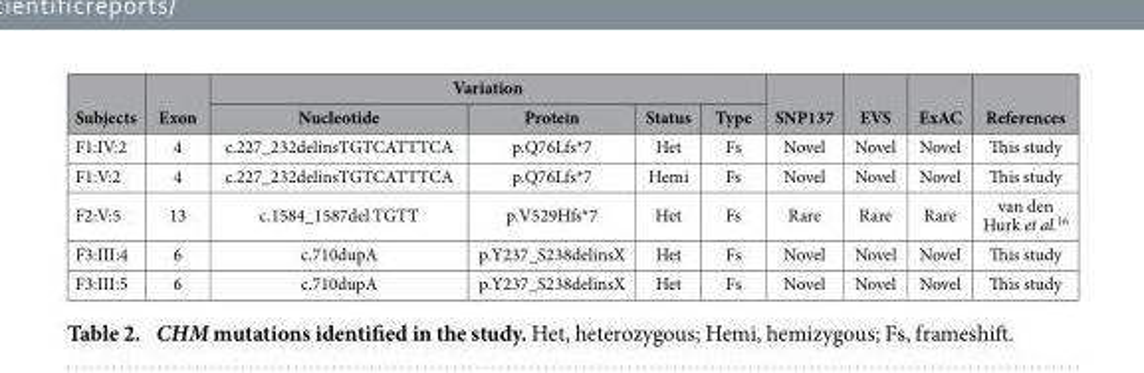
<table><thead><tr><td rowspan="2">Subjects</td><td rowspan="2">Exon</td><td colspan="4">Variation</td><td rowspan="2">SNP137</td><td rowspan="2">EVS</td><td rowspan="2">ExAC</td><td rowspan="2">References</td></tr><tr><td>Nucleotide</td><td>Protein</td><td>Status</td><td>Type</td></tr></thead><tbody><tr><td>F1:IV:2</td><td>4</td><td>c.227_232delinsTGTCATTTCA</td><td>p.Q76Lfs*7</td><td>Het</td><td>Fs</td><td>Novel</td><td>Novel</td><td>Novel</td><td>This study</td></tr><tr><td>F1:V:2</td><td>4</td><td>c.227_232delinsTGTCATTTCA</td><td>p.Q76Lfs*7</td><td>Hemi</td><td>Fs</td><td>Novel</td><td>Novel</td><td>Novel</td><td>This study</td></tr><tr><td>F2:V:5</td><td>13</td><td>c.1584_1587del TGTT</td><td>p.V529Hfs*7</td><td>Het</td><td>Fs</td><td>Rare</td><td>Rare</td><td>Rare</td><td>van den Hurk et al.<sup>16</sup></td></tr><tr><td>F3:III:4</td><td>6</td><td>c.710dupA</td><td>p.Y237_S238delinsX</td><td>Het</td><td>Fs</td><td>Novel</td><td>Novel</td><td>Novel</td><td>This study</td></tr><tr><td>F3:III:5</td><td>6</td><td>c.710dupA</td><td>p.Y237_S238delinsX</td><td>Het</td><td>Fs</td><td>Novel</td><td>Novel</td><td>Novel</td><td>This study</td></tr></tbody></table>